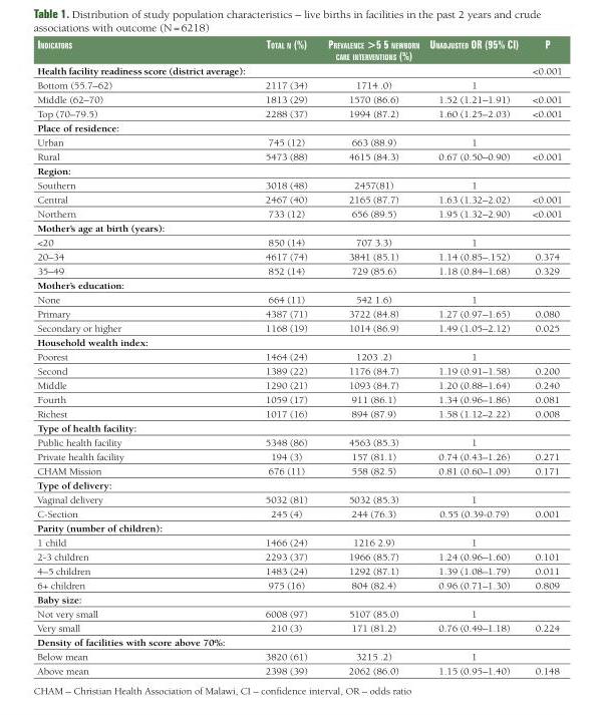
<table><thead><tr><td>IndIcators</td><td>total n (%)</td><td>Prevalence &gt;5 5 newborn care InterventIons (%)</td><td>UnadjUsted or (95% cI)</td><td>P</td></tr></thead><tbody><tr><td>Health facility readiness score (district average):</td><td></td><td></td><td></td><td>&lt;0.001</td></tr><tr><td>Bottom (55.7–62)</td><td>2117 (34)</td><td>1714 .0)</td><td>1</td><td></td></tr><tr><td>Middle (62–70)</td><td>1813 (29)</td><td>1570 (86.6)</td><td>1.52 (1.21–1.91)</td><td>&lt;0.001</td></tr><tr><td>Top (70–79.5)</td><td>2288 (37)</td><td>1994 (87.2)</td><td>1.60 (1.25–2.03)</td><td>&lt;0.001</td></tr><tr><td colspan="5">Place of residence:</td></tr><tr><td>Urban</td><td>745 (12)</td><td>663 (88.9)</td><td>1</td><td></td></tr><tr><td>Rural</td><td>5473 (88)</td><td>4615 (84.3)</td><td>0.67 (0.50–0.90)</td><td>&lt;0.001</td></tr><tr><td colspan="5">Region:</td></tr><tr><td>Southern</td><td>3018 (48)</td><td>2457(81)</td><td>1</td><td></td></tr><tr><td>Central</td><td>2467 (40)</td><td>2165 (87.7)</td><td>1.63 (1.32–2.02)</td><td>&lt;0.001</td></tr><tr><td>Northern</td><td>733 (12)</td><td>656 (89.5)</td><td>1.95 (1.32–2.90)</td><td>&lt;0.001</td></tr><tr><td colspan="5">Mother’s age at birth (years):</td></tr><tr><td>&lt;20</td><td>850 (14)</td><td>707 3.3)</td><td>1</td><td></td></tr><tr><td>20–34</td><td>4617 (74)</td><td>3841 (85.1)</td><td>1.14 (0.85–.152)</td><td>0.374</td></tr><tr><td>35–49</td><td>852 (14)</td><td>729 (85.6)</td><td>1.18 (0.84–1.68)</td><td>0.329</td></tr><tr><td colspan="5">Mother’s education:</td></tr><tr><td>None</td><td>664 (11)</td><td>542 1.6)</td><td>1</td><td></td></tr><tr><td>Primary</td><td>4387 (71)</td><td>3722 (84.8)</td><td>1.27 (0.97–1.65)</td><td>0.080</td></tr><tr><td>Secondary or higher</td><td>1168 (19)</td><td>1014 (86.9)</td><td>1.49 (1.05–2.12)</td><td>0.025</td></tr><tr><td colspan="5">Household wealth index:</td></tr><tr><td>Poorest</td><td>1464 (24)</td><td>1203 .2)</td><td>1</td><td></td></tr><tr><td>Second</td><td>1389 (22)</td><td>1176 (84.7)</td><td>1.19 (0.91–1.58)</td><td>0.200</td></tr><tr><td>Middle</td><td>1290 (21)</td><td>1093 (84.7)</td><td>1.20 (0.88–1.64)</td><td>0.240</td></tr><tr><td>Fourth</td><td>1059 (17)</td><td>911 (86.1)</td><td>1.34 (0.96–1.86)</td><td>0.081</td></tr><tr><td>Richest</td><td>1017 (16)</td><td>894 (87.9)</td><td>1.58 (1.12–2.22)</td><td>0.008</td></tr><tr><td colspan="5">Type of health facility:</td></tr><tr><td>Public health facility</td><td>5348 (86)</td><td>4563 (85.3)</td><td>1</td><td></td></tr><tr><td>Private health facility</td><td>194 (3)</td><td>157 (81.1)</td><td>0.74 (0.43–1.26)</td><td>0.271</td></tr><tr><td>CHAM Mission</td><td>676 (11)</td><td>558 (82.5)</td><td>0.81 (0.60–1.09)</td><td>0.171</td></tr><tr><td colspan="5">Type of delivery:</td></tr><tr><td>Vaginal delivery</td><td>5032 (81)</td><td>5032 (85.3)</td><td>1</td><td></td></tr><tr><td>C-Section</td><td>245 (4)</td><td>244 (76.3)</td><td>0.55 (0.39-0.79)</td><td>0.001</td></tr><tr><td colspan="5">Parity (number of children):</td></tr><tr><td>1 child</td><td>1466 (24)</td><td>1216 2.9)</td><td>1</td><td></td></tr><tr><td>2-3 children</td><td>2293 (37)</td><td>1966 (85.7)</td><td>1.24 (0.96–1.60)</td><td>0.101</td></tr><tr><td>4–5 children</td><td>1483 (24)</td><td>1292 (87.1)</td><td>1.39 (1.08–1.79)</td><td>0.011</td></tr><tr><td>6+ children</td><td>975 (16)</td><td>804 (82.4)</td><td>0.96 (0.71–1.30)</td><td>0.809</td></tr><tr><td colspan="5">Baby size:</td></tr><tr><td>Not very small</td><td>6008 (97)</td><td>5107 (85.0)</td><td>1</td><td></td></tr><tr><td>Very small</td><td>210 (3)</td><td>171 (81.2)</td><td>0.76 (0.49–1.18)</td><td>0.224</td></tr><tr><td colspan="5">Density of facilities with score above 70%:</td></tr><tr><td>Below mean</td><td>3820 (61)</td><td>3215 .2)</td><td>1</td><td></td></tr><tr><td>Above mean</td><td>2398 (39)</td><td>2062 (86.0)</td><td>1.15 (0.95–1.40)</td><td>0.148</td></tr></tbody></table>